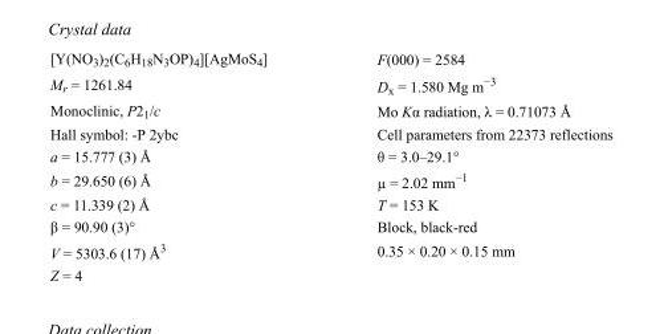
<table><tbody><tr><td>[Y(NO<sub>3</sub>)<sub>2</sub>(C<sub>6</sub>H<sub>18</sub>N<sub>3</sub>OP)<sub>4</sub>][AgMoS<sub>4</sub>]</td><td>F(000) = 2584</td></tr><tr><td>M<sub>r</sub> = 1261.84</td><td>D<sub>x</sub> = 1.580 Mg m<sup>−3</sup></td></tr><tr><td>Monoclinic, P2<sub>1</sub>/c</td><td>Mo Kα radiation, λ = 0.71073 Å</td></tr><tr><td>Hall symbol: -P 2ybc</td><td>Cell parameters from 22373 reflections</td></tr><tr><td>a = 15.777 (3) Å</td><td>θ = 3.0–29.1°</td></tr><tr><td>b = 29.650 (6) Å</td><td>µ = 2.02 mm<sup>−1</sup></td></tr><tr><td>c = 11.339 (2) Å</td><td>T = 153 K</td></tr><tr><td>β = 90.90 (3)°</td><td>Block, black-red</td></tr><tr><td>V = 5303.6 (17) Å<sup>3</sup></td><td>0.35 × 0.20 × 0.15 mm</td></tr><tr><td>Z = 4</td><td></td></tr></tbody></table>